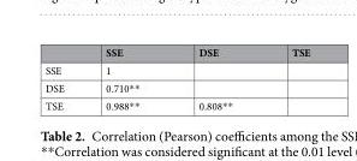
<table><thead><tr><td></td><td>SSE</td><td>DSE</td><td>TSE</td></tr></thead><tbody><tr><td>SSE</td><td>1</td><td></td><td></td></tr><tr><td>DSE</td><td>0.710**</td><td></td><td></td></tr><tr><td>TSE</td><td>0.988**</td><td>0.808**</td><td></td></tr></tbody></table>